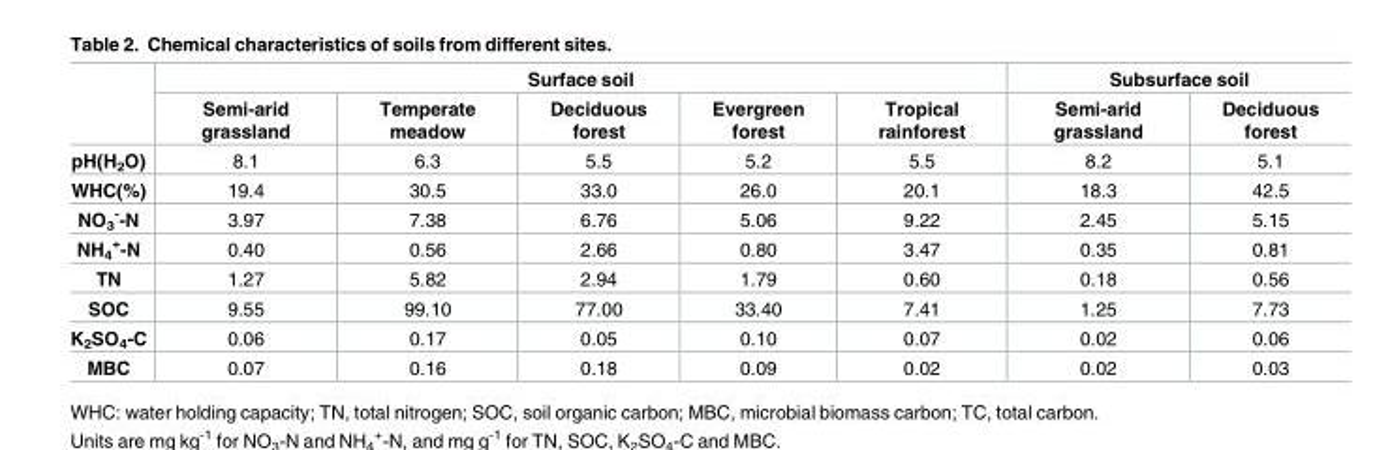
<table><thead><tr><td rowspan="2"></td><td colspan="5">Surface soil</td><td colspan="2">Subsurface soil</td></tr><tr><td>Semi-arid grassland</td><td>Temperate meadow</td><td>Deciduous forest</td><td>Evergreen forest</td><td>Tropical rainforest</td><td>Semi-arid grassland</td><td>Deciduous forest</td></tr></thead><tbody><tr><td>pH(H<sub>2</sub>O)</td><td>8.1</td><td>6.3</td><td>5.5</td><td>5.2</td><td>5.5</td><td>8.2</td><td>5.1</td></tr><tr><td>WHC(%)</td><td>19.4</td><td>30.5</td><td>33.0</td><td>26.0</td><td>20.1</td><td>18.3</td><td>42.5</td></tr><tr><td>NO3 --N</td><td>3.97</td><td>7.38</td><td>6.76</td><td>5.06</td><td>9.22</td><td>2.45</td><td>5.15</td></tr><tr><td>NH<sub>4</sub> <sup>+</sup>-N</td><td>0.40</td><td>0.56</td><td>2.66</td><td>0.80</td><td>3.47</td><td>0.35</td><td>0.81</td></tr><tr><td>TN</td><td>1.27</td><td>5.82</td><td>2.94</td><td>1.79</td><td>0.60</td><td>0.18</td><td>0.56</td></tr><tr><td>SOC</td><td>9.55</td><td>99.10</td><td>77.00</td><td>33.40</td><td>7.41</td><td>1.25</td><td>7.73</td></tr><tr><td>K<sub>2</sub>SO<sub>4</sub>-C</td><td>0.06</td><td>0.17</td><td>0.05</td><td>0.10</td><td>0.07</td><td>0.02</td><td>0.06</td></tr><tr><td>MBC</td><td>0.07</td><td>0.16</td><td>0.18</td><td>0.09</td><td>0.02</td><td>0.02</td><td>0.03</td></tr></tbody></table>